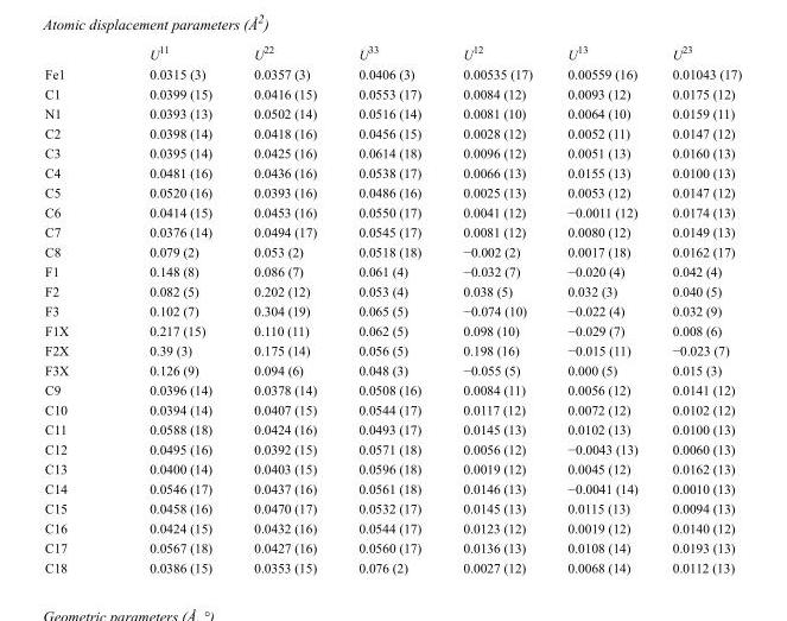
<table><thead><tr><td></td><td>U<sup>11</sup></td><td>U<sup>22</sup></td><td>U<sup>33</sup></td><td>U<sup>12</sup></td><td>U<sup>13</sup></td><td>U<sup>23</sup></td></tr></thead><tbody><tr><td>Fe1</td><td>0.0315 (3)</td><td>0.0357 (3)</td><td>0.0406 (3)</td><td>0.00535 (17)</td><td>0.00559 (16)</td><td>0.01043 (17)</td></tr><tr><td>C1</td><td>0.0399 (15)</td><td>0.0416 (15)</td><td>0.0553 (17)</td><td>0.0084 (12)</td><td>0.0093 (12)</td><td>0.0175 (12)</td></tr><tr><td>N1</td><td>0.0393 (13)</td><td>0.0502 (14)</td><td>0.0516 (14)</td><td>0.0081 (10)</td><td>0.0064 (10)</td><td>0.0159 (11)</td></tr><tr><td>C2</td><td>0.0398 (14)</td><td>0.0418 (16)</td><td>0.0456 (15)</td><td>0.0028 (12)</td><td>0.0052 (11)</td><td>0.0147 (12)</td></tr><tr><td>C3</td><td>0.0395 (14)</td><td>0.0425 (16)</td><td>0.0614 (18)</td><td>0.0096 (12)</td><td>0.0051 (13)</td><td>0.0160 (13)</td></tr><tr><td>C4</td><td>0.0481 (16)</td><td>0.0436 (16)</td><td>0.0538 (17)</td><td>0.0066 (13)</td><td>0.0155 (13)</td><td>0.0100 (13)</td></tr><tr><td>C5</td><td>0.0520 (16)</td><td>0.0393 (16)</td><td>0.0486 (16)</td><td>0.0025 (13)</td><td>0.0053 (12)</td><td>0.0147 (12)</td></tr><tr><td>C6</td><td>0.0414 (15)</td><td>0.0453 (16)</td><td>0.0550 (17)</td><td>0.0041 (12)</td><td>−0.0011 (12)</td><td>0.0174 (13)</td></tr><tr><td>C7</td><td>0.0376 (14)</td><td>0.0494 (17)</td><td>0.0545 (17)</td><td>0.0081 (12)</td><td>0.0080 (12)</td><td>0.0149 (13)</td></tr><tr><td>C8</td><td>0.079 (2)</td><td>0.053 (2)</td><td>0.0518 (18)</td><td>−0.002 (2)</td><td>0.0017 (18)</td><td>0.0162 (17)</td></tr><tr><td>F1</td><td>0.148 (8)</td><td>0.086 (7)</td><td>0.061 (4)</td><td>−0.032 (7)</td><td>−0.020 (4)</td><td>0.042 (4)</td></tr><tr><td>F2</td><td>0.082 (5)</td><td>0.202 (12)</td><td>0.053 (4)</td><td>0.038 (5)</td><td>0.032 (3)</td><td>0.040 (5)</td></tr><tr><td>F3</td><td>0.102 (7)</td><td>0.304 (19)</td><td>0.065 (5)</td><td>−0.074 (10)</td><td>−0.022 (4)</td><td>0.032 (9)</td></tr><tr><td>F1X</td><td>0.217 (15)</td><td>0.110 (11)</td><td>0.062 (5)</td><td>0.098 (10)</td><td>−0.029 (7)</td><td>0.008 (6)</td></tr><tr><td>F2X</td><td>0.39 (3)</td><td>0.175 (14)</td><td>0.056 (5)</td><td>0.198 (16)</td><td>−0.015 (11)</td><td>−0.023 (7)</td></tr><tr><td>F3X</td><td>0.126 (9)</td><td>0.094 (6)</td><td>0.048 (3)</td><td>−0.055 (5)</td><td>0.000 (5)</td><td>0.015 (3)</td></tr><tr><td>C9</td><td>0.0396 (14)</td><td>0.0378 (14)</td><td>0.0508 (16)</td><td>0.0084 (11)</td><td>0.0056 (12)</td><td>0.0141 (12)</td></tr><tr><td>C10</td><td>0.0394 (14)</td><td>0.0407 (15)</td><td>0.0544 (17)</td><td>0.0117 (12)</td><td>0.0072 (12)</td><td>0.0102 (12)</td></tr><tr><td>C11</td><td>0.0588 (18)</td><td>0.0424 (16)</td><td>0.0493 (17)</td><td>0.0145 (13)</td><td>0.0102 (13)</td><td>0.0100 (13)</td></tr><tr><td>C12</td><td>0.0495 (16)</td><td>0.0392 (15)</td><td>0.0571 (18)</td><td>0.0056 (12)</td><td>−0.0043 (13)</td><td>0.0060 (13)</td></tr><tr><td>C13</td><td>0.0400 (14)</td><td>0.0403 (15)</td><td>0.0596 (18)</td><td>0.0019 (12)</td><td>0.0045 (12)</td><td>0.0162 (13)</td></tr><tr><td>C14</td><td>0.0546 (17)</td><td>0.0437 (16)</td><td>0.0561 (18)</td><td>0.0146 (13)</td><td>−0.0041 (14)</td><td>0.0010 (13)</td></tr><tr><td>C15</td><td>0.0458 (16)</td><td>0.0470 (17)</td><td>0.0532 (17)</td><td>0.0145 (13)</td><td>0.0115 (13)</td><td>0.0094 (13)</td></tr><tr><td>C16</td><td>0.0424 (15)</td><td>0.0432 (16)</td><td>0.0544 (17)</td><td>0.0123 (12)</td><td>0.0019 (12)</td><td>0.0140 (12)</td></tr><tr><td>C17</td><td>0.0567 (18)</td><td>0.0427 (16)</td><td>0.0560 (17)</td><td>0.0136 (13)</td><td>0.0108 (14)</td><td>0.0193 (13)</td></tr><tr><td>C18</td><td>0.0386 (15)</td><td>0.0353 (15)</td><td>0.076 (2)</td><td>0.0027 (12)</td><td>0.0068 (14)</td><td>0.0112 (13)</td></tr></tbody></table>